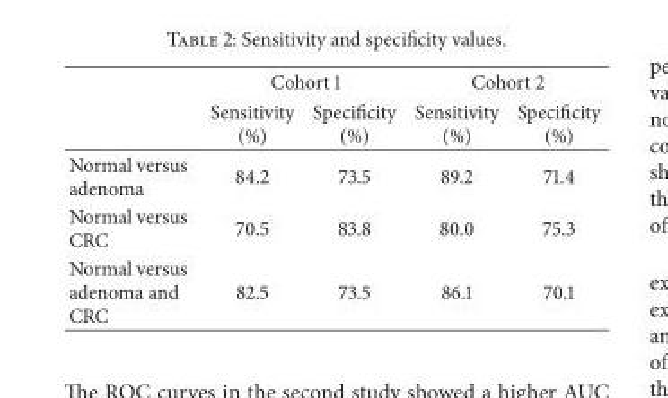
<table><thead><tr><td rowspan="2"></td><td colspan="2">Cohort 1</td><td colspan="2">Cohort 2</td></tr><tr><td>Sensitivity (%)</td><td>Specificity (%)</td><td>Sensitivity (%)</td><td>Specificity (%)</td></tr></thead><tbody><tr><td>Normal versus adenoma</td><td>84.2</td><td>73.5</td><td>89.2</td><td>71.4</td></tr><tr><td>Normal versus CRC</td><td>70.5</td><td>83.8</td><td>80.0</td><td>75.3</td></tr><tr><td>Normal versus adenoma and CRC</td><td>82.5</td><td>73.5</td><td>86.1</td><td>70.1</td></tr></tbody></table>